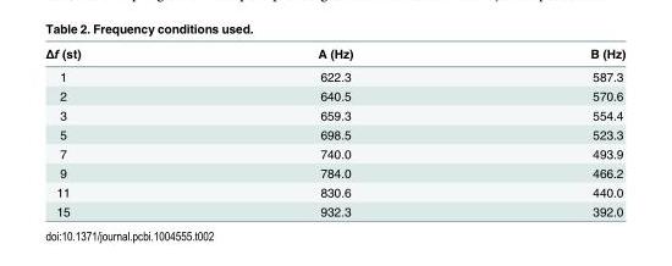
<table><thead><tr><td>Δf (st)</td><td>A (Hz)</td><td>B (Hz)</td></tr></thead><tbody><tr><td>1</td><td>622.3</td><td>587.3</td></tr><tr><td>2</td><td>640.5</td><td>570.6</td></tr><tr><td>3</td><td>659.3</td><td>554.4</td></tr><tr><td>5</td><td>698.5</td><td>523.3</td></tr><tr><td>7</td><td>740.0</td><td>493.9</td></tr><tr><td>9</td><td>784.0</td><td>466.2</td></tr><tr><td>11</td><td>830.6</td><td>440.0</td></tr><tr><td>15</td><td>932.3</td><td>392.0</td></tr></tbody></table>